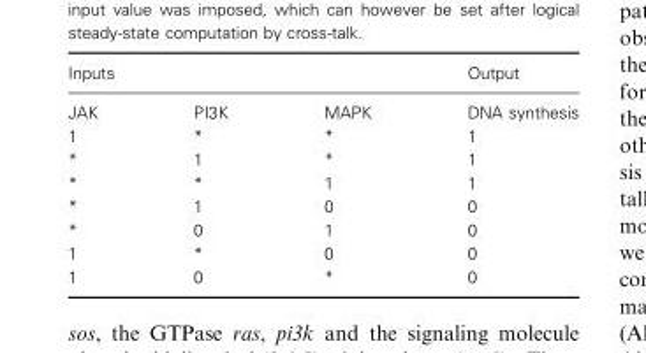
<table><thead><tr><td colspan="3">Inputs</td><td rowspan="2">Output DNA synthesis</td></tr><tr><td>JAK</td><td>PI3K</td><td>MAPK</td></tr></thead><tbody><tr><td>1</td><td>*</td><td>*</td><td>1</td></tr><tr><td>*</td><td>1</td><td>*</td><td>1</td></tr><tr><td>*</td><td>*</td><td>1</td><td>1</td></tr><tr><td>*</td><td>1</td><td>0</td><td>0</td></tr><tr><td>*</td><td>0</td><td>1</td><td>0</td></tr><tr><td>1</td><td>*</td><td>0</td><td>0</td></tr><tr><td>1</td><td>0</td><td>*</td><td>0</td></tr></tbody></table>